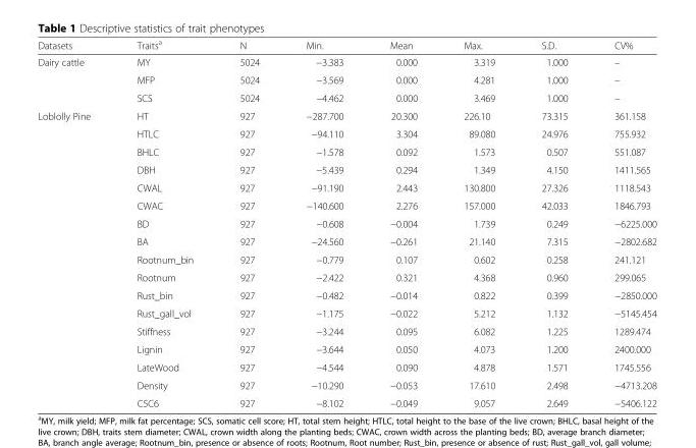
<table><thead><tr><td>Datasets</td><td>Traits<sup>a</sup></td><td>N</td><td>Min.</td><td>Mean</td><td>Max.</td><td>S.D.</td><td>CV%</td></tr></thead><tbody><tr><td rowspan="3">Dairy cattle</td><td>MY</td><td>5024</td><td>−3.383</td><td>0.000</td><td>3.319</td><td>1.000</td><td>–</td></tr><tr><td>MFP</td><td>5024</td><td>−3.569</td><td>0.000</td><td>4.281</td><td>1.000</td><td>–</td></tr><tr><td>SCS</td><td>5024</td><td>−4.462</td><td>0.000</td><td>3.469</td><td>1.000</td><td>–</td></tr><tr><td rowspan="17">Loblolly Pine</td><td>HT</td><td>927</td><td>−287.700</td><td>20.300</td><td>226.10</td><td>73.315</td><td>361.158</td></tr><tr><td>HTLC</td><td>927</td><td>−94.110</td><td>3.304</td><td>89.080</td><td>24.976</td><td>755.932</td></tr><tr><td>BHLC</td><td>927</td><td>−1.578</td><td>0.092</td><td>1.573</td><td>0.507</td><td>551.087</td></tr><tr><td>DBH</td><td>927</td><td>−5.439</td><td>0.294</td><td>1.349</td><td>4.150</td><td>1411.565</td></tr><tr><td>CWAL</td><td>927</td><td>−91.190</td><td>2.443</td><td>130.800</td><td>27.326</td><td>1118.543</td></tr><tr><td>CWAC</td><td>927</td><td>−140.600</td><td>2.276</td><td>157.000</td><td>42.033</td><td>1846.793</td></tr><tr><td>BD</td><td>927</td><td>−0.608</td><td>−0.004</td><td>1.739</td><td>0.249</td><td>−6225.000</td></tr><tr><td>BA</td><td>927</td><td>−24.560</td><td>−0.261</td><td>21.140</td><td>7.315</td><td>−2802.682</td></tr><tr><td>Rootnum_bin</td><td>927</td><td>−0.779</td><td>0.107</td><td>0.602</td><td>0.258</td><td>241.121</td></tr><tr><td>Rootnum</td><td>927</td><td>−2.422</td><td>0.321</td><td>4.368</td><td>0.960</td><td>299.065</td></tr><tr><td>Rust_bin</td><td>927</td><td>−0.482</td><td>−0.014</td><td>0.822</td><td>0.399</td><td>−2850.000</td></tr><tr><td>Rust_gall_vol</td><td>927</td><td>−1.175</td><td>−0.022</td><td>5.212</td><td>1.132</td><td>−5145.454</td></tr><tr><td>Stiffness</td><td>927</td><td>−3.244</td><td>0.095</td><td>6.082</td><td>1.225</td><td>1289.474</td></tr><tr><td>Lignin</td><td>927</td><td>−3.644</td><td>0.050</td><td>4.073</td><td>1.200</td><td>2400.000</td></tr><tr><td>LateWood</td><td>927</td><td>−4.544</td><td>0.090</td><td>4.878</td><td>1.571</td><td>1745.556</td></tr><tr><td>Density</td><td>927</td><td>−10.290</td><td>−0.053</td><td>17.610</td><td>2.498</td><td>−4713.208</td></tr><tr><td>C5C6</td><td>927</td><td>−8.102</td><td>−0.049</td><td>9.057</td><td>2.649</td><td>−5406.122</td></tr></tbody></table>